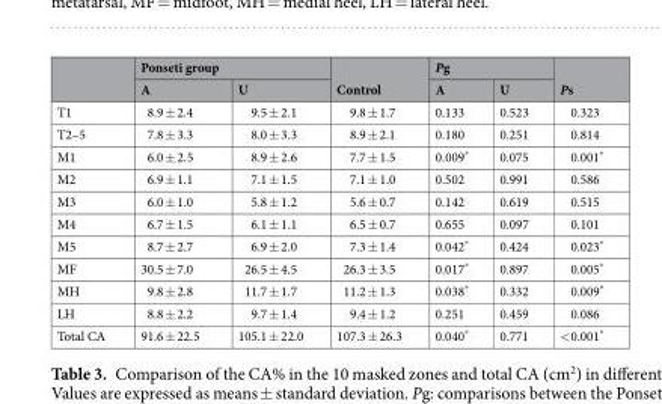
<table><thead><tr><td rowspan="2"></td><td colspan="2">Ponseti group</td><td rowspan="2">Control</td><td colspan="2">Pg</td><td rowspan="2">Ps</td></tr><tr><td>A</td><td>U</td><td>A</td><td>U</td></tr></thead><tbody><tr><td>T1</td><td>8.9 ± 2.4</td><td>9.5 ± 2.1</td><td>9.8 ± 1.7</td><td>0.133</td><td>0.523</td><td>0.323</td></tr><tr><td>T2–5</td><td>7.8 ± 3.3</td><td>8.0 ± 3.3</td><td>8.9 ± 2.1</td><td>0.180</td><td>0.251</td><td>0.814</td></tr><tr><td>M1</td><td>6.0 ± 2.5</td><td>8.9 ± 2.6</td><td>7.7 ± 1.5</td><td>0.009*</td><td>0.075</td><td>0.001*</td></tr><tr><td>M2</td><td>6.9 ± 1.1</td><td>7.1 ± 1.5</td><td>7.1 ± 1.0</td><td>0.502</td><td>0.991</td><td>0.586</td></tr><tr><td>M3</td><td>6.0 ± 1.0</td><td>5.8 ± 1.2</td><td>5.6 ± 0.7</td><td>0.142</td><td>0.619</td><td>0.515</td></tr><tr><td>M4</td><td>6.7 ± 1.5</td><td>6.1 ± 1.1</td><td>6.5 ± 0.7</td><td>0.655</td><td>0.097</td><td>0.101</td></tr><tr><td>M5</td><td>8.7 ± 2.7</td><td>6.9 ± 2.0</td><td>7.3 ± 1.4</td><td>0.042*</td><td>0.424</td><td>0.023*</td></tr><tr><td>MF</td><td>30.5 ± 7.0</td><td>26.5 ± 4.5</td><td>26.3 ± 3.5</td><td>0.017*</td><td>0.897</td><td>0.005*</td></tr><tr><td>MH</td><td>9.8 ± 2.8</td><td>11.7 ± 1.7</td><td>11.2 ± 1.3</td><td>0.038*</td><td>0.332</td><td>0.009*</td></tr><tr><td>LH</td><td>8.8 ± 2.2</td><td>9.7 ± 1.4</td><td>9.4 ± 1.2</td><td>0.251</td><td>0.459</td><td>0.086</td></tr><tr><td>Total CA</td><td>91.6 ± 22.5</td><td>105.1 ± 22.0</td><td>107.3 ± 26.3</td><td>0.040*</td><td>0.771</td><td>&lt;0.001*</td></tr></tbody></table>